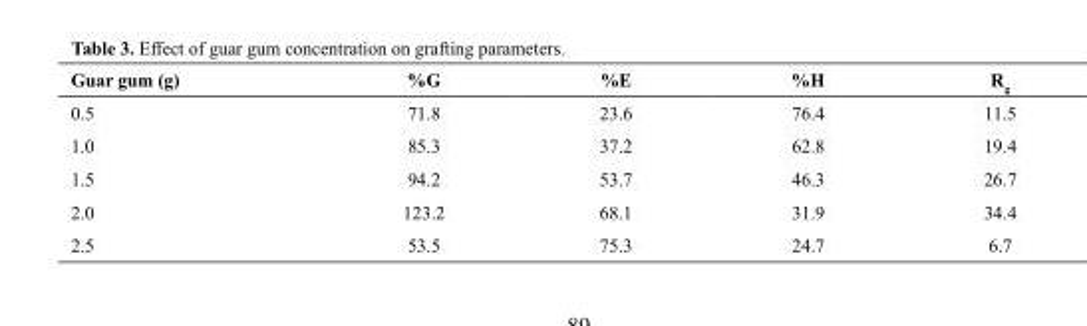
<table><thead><tr><td>Guar gum (g)</td><td>%G</td><td>%E</td><td>%H</td><td>R<sub>g</sub></td></tr></thead><tbody><tr><td>0.5</td><td>71.8</td><td>23.6</td><td>76.4</td><td>11.5</td></tr><tr><td>1.0</td><td>85.3</td><td>37.2</td><td>62.8</td><td>19.4</td></tr><tr><td>1.5</td><td>94.2</td><td>53.7</td><td>46.3</td><td>26.7</td></tr><tr><td>2.0</td><td>123.2</td><td>68.1</td><td>31.9</td><td>34.4</td></tr><tr><td>2.5</td><td>53.5</td><td>75.3</td><td>24.7</td><td>6.7</td></tr></tbody></table>